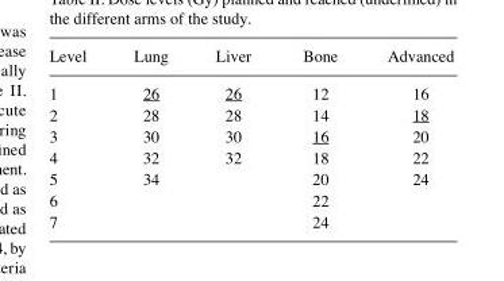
<table><thead><tr><td>Level</td><td>Lung</td><td>Liver</td><td>Bone</td><td>Advanced</td></tr></thead><tbody><tr><td>1</td><td>26</td><td>26</td><td>12</td><td>16</td></tr><tr><td>2</td><td>28</td><td>28</td><td>14</td><td>18</td></tr><tr><td>3</td><td>30</td><td>30</td><td>16</td><td>20</td></tr><tr><td>4</td><td>32</td><td>32</td><td>18</td><td>22</td></tr><tr><td>5</td><td>34</td><td></td><td>20</td><td>24</td></tr><tr><td>6</td><td></td><td></td><td>22</td><td></td></tr><tr><td>7</td><td></td><td></td><td>24</td><td></td></tr></tbody></table>